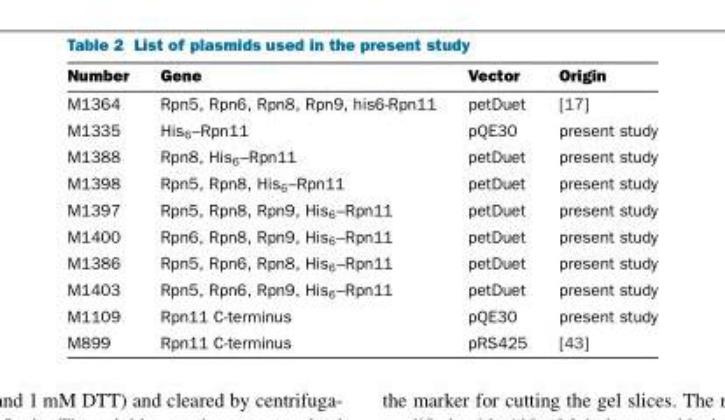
<table><thead><tr><td>Number</td><td>Gene</td><td>Vector</td><td>Origin</td></tr></thead><tbody><tr><td>M1364</td><td>Rpn5, Rpn6, Rpn8, Rpn9, his6-Rpn11</td><td>petDuet</td><td>[17]</td></tr><tr><td>M1335</td><td>His<sub>6</sub>–Rpn11</td><td>pQE30</td><td>present study</td></tr><tr><td>M1388</td><td>Rpn8, His<sub>6</sub>–Rpn11</td><td>petDuet</td><td>present study</td></tr><tr><td>M1398</td><td>Rpn5, Rpn8, His<sub>6</sub>–Rpn11</td><td>petDuet</td><td>present study</td></tr><tr><td>M1397</td><td>Rpn5, Rpn8, Rpn9, His<sub>6</sub>–Rpn11</td><td>petDuet</td><td>present study</td></tr><tr><td>M1400</td><td>Rpn6, Rpn8, Rpn9, His<sub>6</sub>–Rpn11</td><td>petDuet</td><td>present study</td></tr><tr><td>M1386</td><td>Rpn5, Rpn6, Rpn8, His<sub>6</sub>–Rpn11</td><td>petDuet</td><td>present study</td></tr><tr><td>M1403</td><td>Rpn5, Rpn6, Rpn9, His<sub>6</sub>–Rpn11</td><td>petDuet</td><td>present study</td></tr><tr><td>M1109</td><td>Rpn11 C-terminus</td><td>pQE30</td><td>present study</td></tr><tr><td>M899</td><td>Rpn11 C-terminus</td><td>pRS425</td><td>[43]</td></tr></tbody></table>